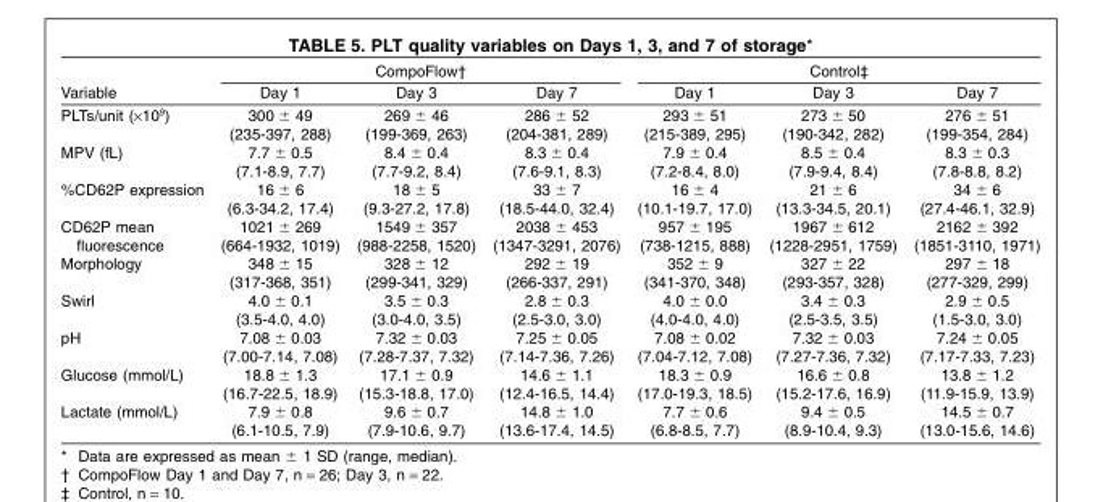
<table><thead><tr><td rowspan="2">Variable</td><td colspan="3">CompoFlow†</td><td colspan="3">Control‡</td></tr><tr><td>Day 1</td><td>Day 3</td><td>Day 7</td><td>Day 1</td><td>Day 3</td><td>Day 7</td></tr></thead><tbody><tr><td>PLTs/unit (×10<sup>9</sup>)</td><td>300 ± 49 (235-397, 288)</td><td>269 ± 46 (199-369, 263)</td><td>286 ± 52 (204-381, 289)</td><td>293 ± 51 (215-389, 295)</td><td>273 ± 50 (190-342, 282)</td><td>276 ± 51 (199-354, 284)</td></tr><tr><td>MPV (fL)</td><td>7.7 ± 0.5 (7.1-8.9, 7.7)</td><td>8.4 ± 0.4 (7.7-9.2, 8.4)</td><td>8.3 ± 0.4 (7.6-9.1, 8.3)</td><td>7.9 ± 0.4 (7.2-8.4, 8.0)</td><td>8.5 ± 0.4 (7.9-9.4, 8.4)</td><td>8.3 ± 0.3 (7.8-8.8, 8.2)</td></tr><tr><td>%CD62P expression</td><td>16 ± 6 (6.3-34.2, 17.4)</td><td>18 ± 5 (9.3-27.2, 17.8)</td><td>33 ± 7 (18.5-44.0, 32.4)</td><td>16 ± 4 (10.1-19.7, 17.0)</td><td>21 ± 6 (13.3-34.5, 20.1)</td><td>34 ± 6 (27.4-46.1, 32.9)</td></tr><tr><td>CD62P mean fluorescence</td><td>1021 ± 269 (664-1932, 1019)</td><td>1549 ± 357 (988-2258, 1520)</td><td>2038 ± 453 (1347-3291, 2076)</td><td>957 ± 195 (738-1215, 888)</td><td>1967 ± 612 (1228-2951, 1759)</td><td>2162 ± 392 (1851-3110, 1971)</td></tr><tr><td>Morphology</td><td>348 ± 15 (317-368, 351)</td><td>328 ± 12 (299-341, 329)</td><td>292 ± 19 (266-337, 291)</td><td>352 ± 9 (341-370, 348)</td><td>327 ± 22 (293-357, 328)</td><td>297 ± 18 (277-329, 299)</td></tr><tr><td>Swirl</td><td>4.0 ± 0.1 (3.5-4.0, 4.0)</td><td>3.5 ± 0.3 (3.0-4.0, 3.5)</td><td>2.8 ± 0.3 (2.5-3.0, 3.0)</td><td>4.0 ± 0.0 (4.0-4.0, 4.0)</td><td>3.4 ± 0.3 (2.5-3.5, 3.5)</td><td>2.9 ± 0.5 (1.5-3.0, 3.0)</td></tr><tr><td>pH</td><td>7.08 ± 0.03 (7.00-7.14, 7.08)</td><td>7.32 ± 0.03 (7.28-7.37, 7.32)</td><td>7.25 ± 0.05 (7.14-7.36, 7.26)</td><td>7.08 ± 0.02 (7.04-7.12, 7.08)</td><td>7.32 ± 0.03 (7.27-7.36, 7.32)</td><td>7.24 ± 0.05 (7.17-7.33, 7.23)</td></tr><tr><td>Glucose (mmol/L)</td><td>18.8 ± 1.3 (16.7-22.5, 18.9)</td><td>17.1 ± 0.9 (15.3-18.8, 17.0)</td><td>14.6 ± 1.1 (12.4-16.5, 14.4)</td><td>18.3 ± 0.9 (17.0-19.3, 18.5)</td><td>16.6 ± 0.8 (15.2-17.6, 16.9)</td><td>13.8 ± 1.2 (11.9-15.9, 13.9)</td></tr><tr><td>Lactate (mmol/L)</td><td>7.9 ± 0.8 (6.1-10.5, 7.9)</td><td>9.6 ± 0.7 (7.9-10.6, 9.7)</td><td>14.8 ± 1.0 (13.6-17.4, 14.5)</td><td>7.7 ± 0.6 (6.8-8.5, 7.7)</td><td>9.4 ± 0.5 (8.9-10.4, 9.3)</td><td>14.5 ± 0.7 (13.0-15.6, 14.6)</td></tr></tbody></table>